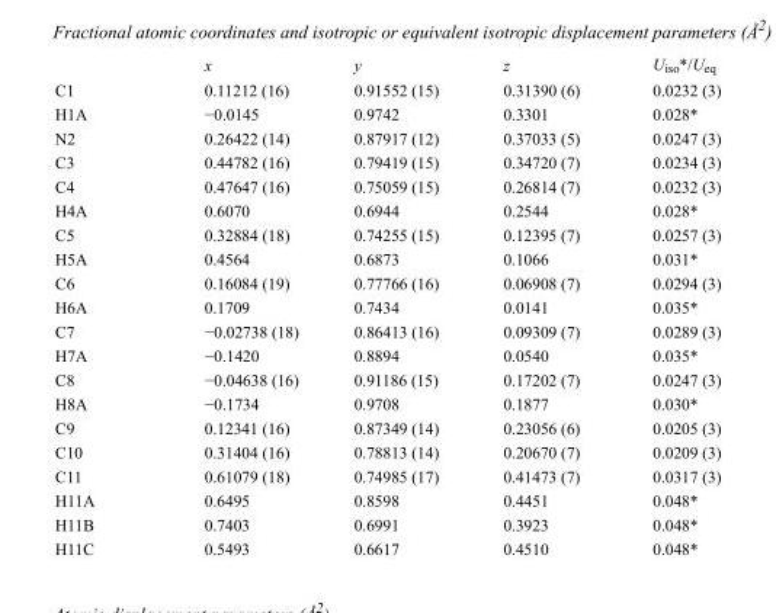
<table><thead><tr><td></td><td>x</td><td>y</td><td>z</td><td>U<sub>iso</sub>*/U<sub>eq</sub></td></tr></thead><tbody><tr><td>C1</td><td>0.11212 (16)</td><td>0.91552 (15)</td><td>0.31390 (6)</td><td>0.0232 (3)</td></tr><tr><td>H1A</td><td>−0.0145</td><td>0.9742</td><td>0.3301</td><td>0.028*</td></tr><tr><td>N2</td><td>0.26422 (14)</td><td>0.87917 (12)</td><td>0.37033 (5)</td><td>0.0247 (3)</td></tr><tr><td>C3</td><td>0.44782 (16)</td><td>0.79419 (15)</td><td>0.34720 (7)</td><td>0.0234 (3)</td></tr><tr><td>C4</td><td>0.47647 (16)</td><td>0.75059 (15)</td><td>0.26814 (7)</td><td>0.0232 (3)</td></tr><tr><td>H4A</td><td>0.6070</td><td>0.6944</td><td>0.2544</td><td>0.028*</td></tr><tr><td>C5</td><td>0.32884 (18)</td><td>0.74255 (15)</td><td>0.12395 (7)</td><td>0.0257 (3)</td></tr><tr><td>H5A</td><td>0.4564</td><td>0.6873</td><td>0.1066</td><td>0.031*</td></tr><tr><td>C6</td><td>0.16084 (19)</td><td>0.77766 (16)</td><td>0.06908 (7)</td><td>0.0294 (3)</td></tr><tr><td>H6A</td><td>0.1709</td><td>0.7434</td><td>0.0141</td><td>0.035*</td></tr><tr><td>C7</td><td>−0.02738 (18)</td><td>0.86413 (16)</td><td>0.09309 (7)</td><td>0.0289 (3)</td></tr><tr><td>H7A</td><td>−0.1420</td><td>0.8894</td><td>0.0540</td><td>0.035*</td></tr><tr><td>C8</td><td>−0.04638 (16)</td><td>0.91186 (15)</td><td>0.17202 (7)</td><td>0.0247 (3)</td></tr><tr><td>H8A</td><td>−0.1734</td><td>0.9708</td><td>0.1877</td><td>0.030*</td></tr><tr><td>C9</td><td>0.12341 (16)</td><td>0.87349 (14)</td><td>0.23056 (6)</td><td>0.0205 (3)</td></tr><tr><td>C10</td><td>0.31404 (16)</td><td>0.78813 (14)</td><td>0.20670 (7)</td><td>0.0209 (3)</td></tr><tr><td>C11</td><td>0.61079 (18)</td><td>0.74985 (17)</td><td>0.41473 (7)</td><td>0.0317 (3)</td></tr><tr><td>H11A</td><td>0.6495</td><td>0.8598</td><td>0.4451</td><td>0.048*</td></tr><tr><td>H11B</td><td>0.7403</td><td>0.6991</td><td>0.3923</td><td>0.048*</td></tr><tr><td>H11C</td><td>0.5493</td><td>0.6617</td><td>0.4510</td><td>0.048*</td></tr></tbody></table>